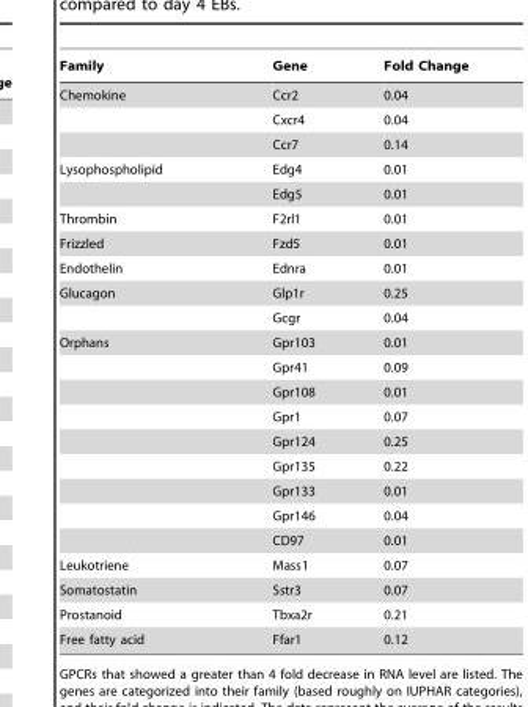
<table><thead><tr><td>Family</td><td>Gene</td><td>Fold Change</td></tr></thead><tbody><tr><td rowspan="3">Chemokine</td><td>Ccr2</td><td>0.04</td></tr><tr><td>Cxcr4</td><td>0.04</td></tr><tr><td>Ccr7</td><td>0.14</td></tr><tr><td rowspan="2">Lysophospholipid</td><td>Edg4</td><td>0.01</td></tr><tr><td>Edg5</td><td>0.01</td></tr><tr><td>Thrombin</td><td>F2rl1</td><td>0.01</td></tr><tr><td>Frizzled</td><td>Fzd5</td><td>0.01</td></tr><tr><td>Endothelin</td><td>Ednra</td><td>0.01</td></tr><tr><td rowspan="2">Glucagon</td><td>Glp1r</td><td>0.25</td></tr><tr><td>Gcgr</td><td>0.04</td></tr><tr><td rowspan="9">Orphans</td><td>Gpr103</td><td>0.01</td></tr><tr><td>Gpr41</td><td>0.09</td></tr><tr><td>Gpr108</td><td>0.01</td></tr><tr><td>Gpr1</td><td>0.07</td></tr><tr><td>Gpr124</td><td>0.25</td></tr><tr><td>Gpr135</td><td>0.22</td></tr><tr><td>Gpr133</td><td>0.01</td></tr><tr><td>Gpr146</td><td>0.04</td></tr><tr><td>CD97</td><td>0.01</td></tr><tr><td>Leukotriene</td><td>Mass1</td><td>0.07</td></tr><tr><td>Somatostatin</td><td>Sstr3</td><td>0.07</td></tr><tr><td>Prostanoid</td><td>Tbxa2r</td><td>0.21</td></tr><tr><td>Free fatty acid</td><td>Ffar1</td><td>0.12</td></tr></tbody></table>